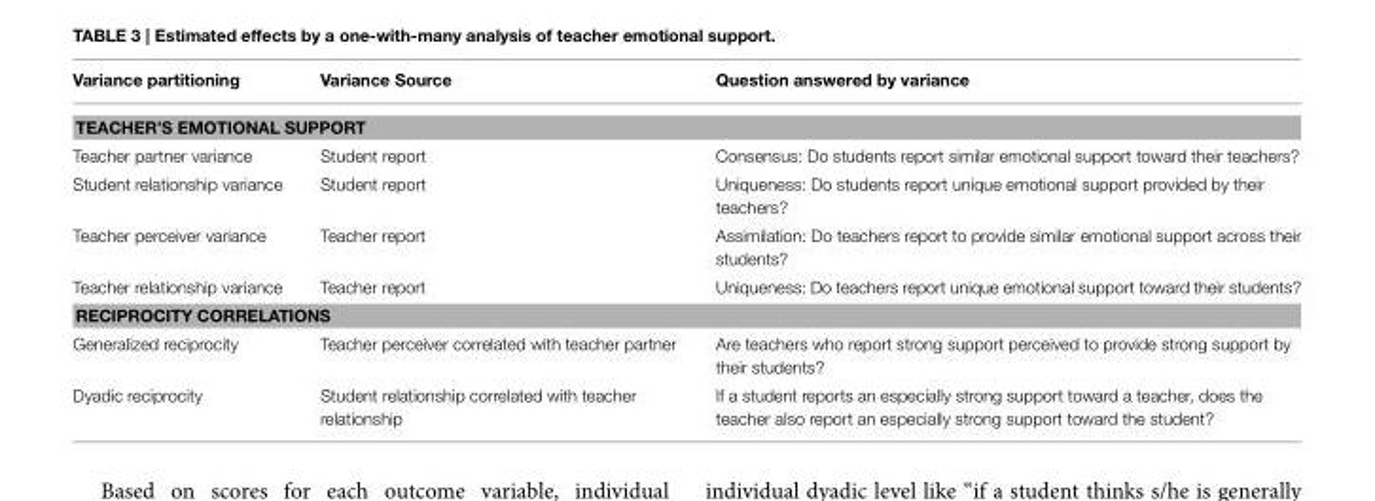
<table><thead><tr><td>Variance partitioning</td><td>Variance Source</td><td>Question answered by variance</td></tr></thead><tbody><tr><td colspan="3">TEACHER’S EMOTIONAL SUPPORT</td></tr><tr><td>Teacher partner variance</td><td>Student report</td><td>Consensus: Do students report similar emotional support toward their teachers?</td></tr><tr><td>Student relationship variance</td><td>Student report</td><td>Uniqueness: Do students report unique emotional support provided by their teachers?</td></tr><tr><td>Teacher perceiver variance</td><td>Teacher report</td><td>Assimilation: Do teachers report to provide similar emotional support across their students?</td></tr><tr><td>Teacher relationship variance</td><td>Teacher report</td><td>Uniqueness: Do teachers report unique emotional support toward their students?</td></tr><tr><td colspan="3">RECIPROCITY CORRELATIONS</td></tr><tr><td>Generalized reciprocity</td><td>Teacher perceiver correlated with teacher partner</td><td>Are teachers who report strong support perceived to provide strong support by their students?</td></tr><tr><td>Dyadic reciprocity</td><td>Student relationship correlated with teacher relationship</td><td>If a student reports an especially strong support toward a teacher, does the teacher also report an especially strong support toward the student?</td></tr></tbody></table>